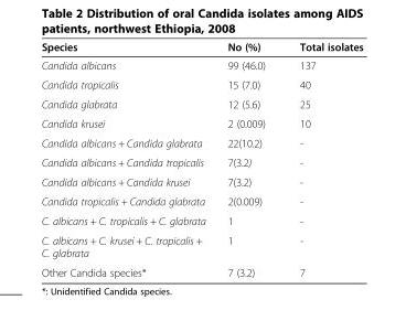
<table><thead><tr><td>Species</td><td>No (%)</td><td>Total isolates</td></tr></thead><tbody><tr><td>Candida albicans</td><td>99 (46.0)</td><td>137</td></tr><tr><td>Candida tropicalis</td><td>15 (7.0)</td><td>40</td></tr><tr><td>Candida glabrata</td><td>12 (5.6)</td><td>25</td></tr><tr><td>Candida krusei</td><td>2 (0.009)</td><td>10</td></tr><tr><td>Candida albicans + Candida glabrata</td><td>22(10.2)</td><td>-</td></tr><tr><td>Candida albicans + Candida tropicalis</td><td>7(3.2)</td><td>-</td></tr><tr><td>Candida albicans + Candida krusei</td><td>7(3.2)</td><td>-</td></tr><tr><td>Candida tropicalis + Candida glabrata</td><td>2(0.009)</td><td>-</td></tr><tr><td>C. albicans + C. tropicalis + C. glabrata</td><td>1</td><td>-</td></tr><tr><td>C. albicans + C. krusei + C. tropicalis + C. glabrata</td><td>1</td><td>-</td></tr><tr><td>Other Candida species*</td><td>7 (3.2)</td><td>7</td></tr></tbody></table>